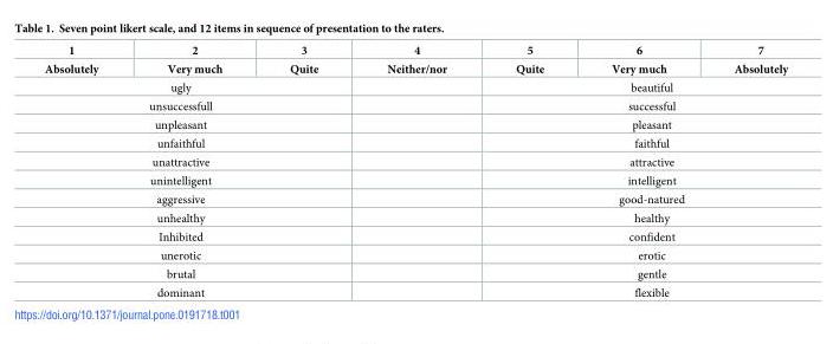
<table><thead><tr><td rowspan="2">1 Absolutely</td><td rowspan="2">2 Very much</td><td rowspan="2">3 Quite</td><td rowspan="2">4 Neither/nor</td><td rowspan="2">5 Quite</td><td rowspan="2">6 Very much</td><td rowspan="2">7 Absolutely</td></tr><tr></tr></thead><tbody><tr><td colspan="3">ugly</td><td></td><td colspan="3">beautiful</td></tr><tr><td colspan="3">unsuccessfull</td><td></td><td colspan="3">successful</td></tr><tr><td colspan="3">unpleasant</td><td></td><td colspan="3">pleasant</td></tr><tr><td colspan="3">unfaithful</td><td></td><td colspan="3">faithful</td></tr><tr><td colspan="3">unattractive</td><td></td><td colspan="3">attractive</td></tr><tr><td colspan="3">unintelligent</td><td></td><td colspan="3">intelligent</td></tr><tr><td colspan="3">aggressive</td><td></td><td colspan="3">good-natured</td></tr><tr><td colspan="3">unhealthy</td><td></td><td colspan="3">healthy</td></tr><tr><td colspan="3">Inhibited</td><td></td><td colspan="3">confident</td></tr><tr><td colspan="3">unerotic</td><td></td><td colspan="3">erotic</td></tr><tr><td colspan="3">brutal</td><td></td><td colspan="3">gentle</td></tr><tr><td colspan="3">dominant</td><td></td><td colspan="3">flexible</td></tr></tbody></table>